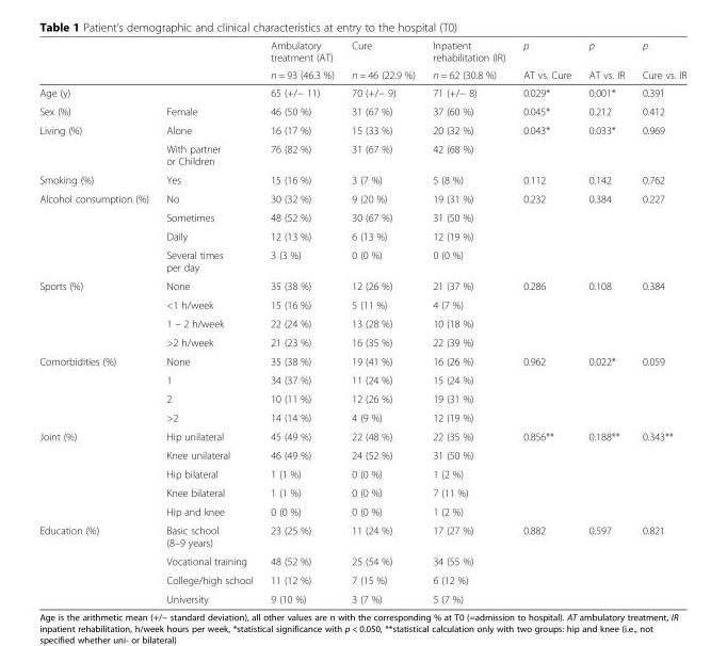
<table><thead><tr><td rowspan="2"></td><td rowspan="2"></td><td rowspan="2">Ambulatory treatment (AT) n = 93 (46.3 %)</td><td rowspan="2">Cure n = 46 (22.9 %)</td><td rowspan="2">Inpatient rehabilitation (IR) n = 62 (30.8 %)</td><td rowspan="2">p AT vs. Cure</td><td rowspan="2">p AT vs. IR</td><td rowspan="2">p Cure vs. IR</td></tr><tr></tr></thead><tbody><tr><td colspan="2">Age (y)</td><td>65 (+/− 11)</td><td>70 (+/− 9)</td><td>71 (+/− 8)</td><td>0.029*</td><td>0.001*</td><td>0.391</td></tr><tr><td>Sex (%)</td><td>Female</td><td>46 (50 %)</td><td>31 (67 %)</td><td>37 (60 %)</td><td>0.045*</td><td>0.212</td><td>0.412</td></tr><tr><td rowspan="2">Living (%)</td><td>Alone</td><td>16 (17 %)</td><td>15 (33 %)</td><td>20 (32 %)</td><td rowspan="2">0.043*</td><td rowspan="2">0.033*</td><td rowspan="2">0.969</td></tr><tr><td>With partner or Children</td><td>76 (82 %)</td><td>31 (67 %)</td><td>42 (68 %)</td></tr><tr><td>Smoking (%)</td><td>Yes</td><td>15 (16 %)</td><td>3 (7 %)</td><td>5 (8 %)</td><td>0.112</td><td>0.142</td><td>0.762</td></tr><tr><td rowspan="4">Alcohol consumption (%)</td><td>No</td><td>30 (32 %)</td><td>9 (20 %)</td><td>19 (31 %)</td><td rowspan="4">0.232</td><td rowspan="4">0.384</td><td rowspan="4">0.227</td></tr><tr><td>Sometimes</td><td>48 (52 %)</td><td>30 (67 %)</td><td>31 (50 %)</td></tr><tr><td>Daily</td><td>12 (13 %)</td><td>6 (13 %)</td><td>12 (19 %)</td></tr><tr><td>Several times per day</td><td>3 (3 %)</td><td>0 (0 %)</td><td>0 (0 %)</td></tr><tr><td rowspan="4">Sports (%)</td><td>None</td><td>35 (38 %)</td><td>12 (26 %)</td><td>21 (37 %)</td><td rowspan="4">0.286</td><td rowspan="4">0.108</td><td rowspan="4">0.384</td></tr><tr><td>&lt;1 h/week</td><td>15 (16 %)</td><td>5 (11 %)</td><td>4 (7 %)</td></tr><tr><td>1 – 2 h/week</td><td>22 (24 %)</td><td>13 (28 %)</td><td>10 (18 %)</td></tr><tr><td>&gt;2 h/week</td><td>21 (23 %)</td><td>16 (35 %)</td><td>22 (39 %)</td></tr><tr><td rowspan="4">Comorbidities (%)</td><td>None</td><td>35 (38 %)</td><td>19 (41 %)</td><td>16 (26 %)</td><td rowspan="4">0.962</td><td rowspan="4">0.022*</td><td rowspan="4">0.059</td></tr><tr><td>1</td><td>34 (37 %)</td><td>11 (24 %)</td><td>15 (24 %)</td></tr><tr><td>2</td><td>10 (11 %)</td><td>12 (26 %)</td><td>19 (31 %)</td></tr><tr><td>&gt;2</td><td>14 (14 %)</td><td>4 (9 %)</td><td>12 (19 %)</td></tr><tr><td rowspan="5">Joint (%)</td><td>Hip unilateral</td><td>45 (49 %)</td><td>22 (48 %)</td><td>22 (35 %)</td><td rowspan="5">0.856**</td><td rowspan="5">0.188**</td><td rowspan="5">0.343**</td></tr><tr><td>Knee unilateral</td><td>46 (49 %)</td><td>24 (52 %)</td><td>31 (50 %)</td></tr><tr><td>Hip bilateral</td><td>1 (1 %)</td><td>0 (0 %)</td><td>1 (2 %)</td></tr><tr><td>Knee bilateral</td><td>1 (1 %)</td><td>0 (0 %)</td><td>7 (11 %)</td></tr><tr><td>Hip and knee</td><td>0 (0 %)</td><td>0 (0 %)</td><td>1 (2 %)</td></tr><tr><td rowspan="4">Education (%)</td><td>Basic school (8–9 years)</td><td>23 (25 %)</td><td>11 (24 %)</td><td>17 (27 %)</td><td rowspan="4">0.882</td><td rowspan="4">0.597</td><td rowspan="4">0.821</td></tr><tr><td>Vocational training</td><td>48 (52 %)</td><td>25 (54 %)</td><td>34 (55 %)</td></tr><tr><td>College/high school</td><td>11 (12 %)</td><td>7 (15 %)</td><td>6 (12 %)</td></tr><tr><td>University</td><td>9 (10 %)</td><td>3 (7 %)</td><td>5 (7 %)</td></tr></tbody></table>